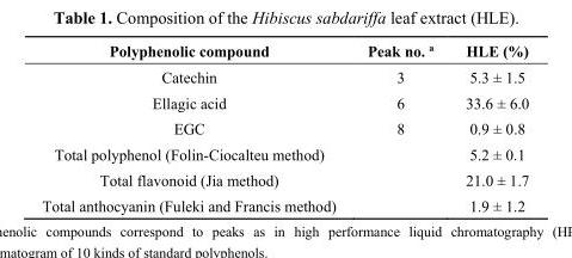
<table><thead><tr><td>Polyphenolic compound</td><td>Peak no. <sup>a</sup></td><td>HLE (%)</td></tr></thead><tbody><tr><td>Catechin</td><td>3</td><td>5.3 ± 1.5</td></tr><tr><td>Ellagic acid</td><td>6</td><td>33.6 ± 6.0</td></tr><tr><td>EGC</td><td>8</td><td>0.9 ± 0.8</td></tr><tr><td>Total polyphenol (Folin-Ciocalteu method)</td><td></td><td>5.2 ± 0.1</td></tr><tr><td>Total flavonoid (Jia method)</td><td></td><td>21.0 ± 1.7</td></tr><tr><td>Total anthocyanin (Fuleki and Francis method)</td><td></td><td>1.9 ± 1.2</td></tr></tbody></table>